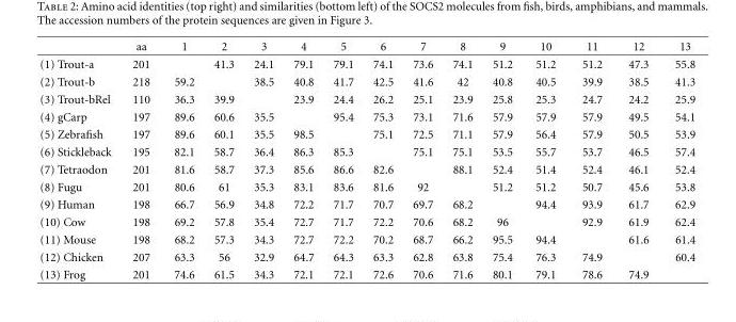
<table><thead><tr><td></td><td>aa</td><td>1</td><td>2</td><td>3</td><td>4</td><td>5</td><td>6</td><td>7</td><td>8</td><td>9</td><td>10</td><td>11</td><td>12</td><td>13</td></tr></thead><tbody><tr><td>(1) Trout-a</td><td>201</td><td></td><td>41.3</td><td>24.1</td><td>79.1</td><td>79.1</td><td>74.1</td><td>73.6</td><td>74.1</td><td>51.2</td><td>51.2</td><td>51.2</td><td>47.3</td><td>55.8</td></tr><tr><td>(2) Trout-b</td><td>218</td><td>59.2</td><td></td><td>38.5</td><td>40.8</td><td>41.7</td><td>42.5</td><td>41.6</td><td>42</td><td>40.8</td><td>40.5</td><td>39.9</td><td>38.5</td><td>41.3</td></tr><tr><td>(3) Trout-bRel</td><td>110</td><td>36.3</td><td>39.9</td><td></td><td>23.9</td><td>24.4</td><td>26.2</td><td>25.1</td><td>23.9</td><td>25.8</td><td>25.3</td><td>24.7</td><td>24.2</td><td>25.9</td></tr><tr><td>(4) gCarp</td><td>197</td><td>89.6</td><td>60.6</td><td>35.5</td><td></td><td>95.4</td><td>75.3</td><td>73.1</td><td>71.6</td><td>57.9</td><td>57.9</td><td>57.9</td><td>49.5</td><td>54.1</td></tr><tr><td>(5) Zebrafish</td><td>197</td><td>89.6</td><td>60.1</td><td>35.5</td><td>98.5</td><td></td><td>75.1</td><td>72.5</td><td>71.1</td><td>57.9</td><td>56.4</td><td>57.9</td><td>50.5</td><td>53.9</td></tr><tr><td>(6) Stickleback</td><td>195</td><td>82.1</td><td>58.7</td><td>36.4</td><td>86.3</td><td>85.3</td><td></td><td>75.1</td><td>75.1</td><td>53.5</td><td>55.7</td><td>53.7</td><td>46.5</td><td>57.4</td></tr><tr><td>(7) Tetraodon</td><td>201</td><td>81.6</td><td>58.7</td><td>37.3</td><td>85.6</td><td>86.6</td><td>82.6</td><td></td><td>88.1</td><td>52.4</td><td>51.4</td><td>52.4</td><td>46.1</td><td>52.4</td></tr><tr><td>(8) Fugu</td><td>201</td><td>80.6</td><td>61</td><td>35.3</td><td>83.1</td><td>83.6</td><td>81.6</td><td>92</td><td></td><td>51.2</td><td>51.2</td><td>50.7</td><td>45.6</td><td>53.8</td></tr><tr><td>(9) Human</td><td>198</td><td>66.7</td><td>56.9</td><td>34.8</td><td>72.2</td><td>71.7</td><td>70.7</td><td>69.7</td><td>68.2</td><td></td><td>94.4</td><td>93.9</td><td>61.7</td><td>62.9</td></tr><tr><td>(10) Cow</td><td>198</td><td>69.2</td><td>57.8</td><td>35.4</td><td>72.7</td><td>71.7</td><td>72.2</td><td>70.6</td><td>68.2</td><td>96</td><td></td><td>92.9</td><td>61.9</td><td>62.4</td></tr><tr><td>(11) Mouse</td><td>198</td><td>68.2</td><td>57.3</td><td>34.3</td><td>72.7</td><td>72.2</td><td>70.2</td><td>68.7</td><td>66.2</td><td>95.5</td><td>94.4</td><td></td><td>61.6</td><td>61.4</td></tr><tr><td>(12) Chicken</td><td>207</td><td>63.3</td><td>56</td><td>32.9</td><td>64.7</td><td>64.3</td><td>63.3</td><td>62.8</td><td>63.8</td><td>75.4</td><td>76.3</td><td>74.9</td><td></td><td>60.4</td></tr><tr><td>(13) Frog</td><td>201</td><td>74.6</td><td>61.5</td><td>34.3</td><td>72.1</td><td>72.1</td><td>72.6</td><td>70.6</td><td>71.6</td><td>80.1</td><td>79.1</td><td>78.6</td><td>74.9</td><td></td></tr></tbody></table>